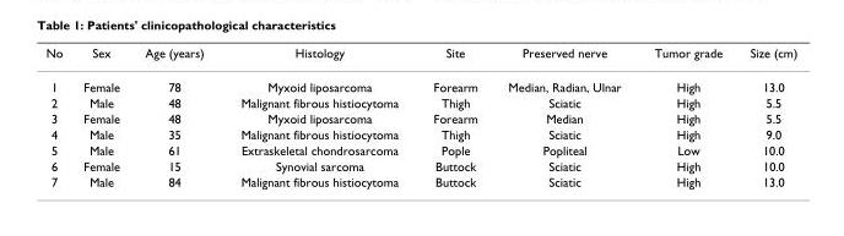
<table><thead><tr><td>No</td><td>Sex</td><td>Age (years)</td><td>Histology</td><td>Site</td><td>Preserved nerve</td><td>Tumor grade</td><td>Size (cm)</td></tr></thead><tbody><tr><td>1</td><td>Female</td><td>78</td><td>Myxoid liposarcoma</td><td>Forearm</td><td>Median, Radian, Ulnar</td><td>High</td><td>13.0</td></tr><tr><td>2</td><td>Male</td><td>48</td><td>Malignant fibrous histiocytoma</td><td>Thigh</td><td>Sciatic</td><td>High</td><td>5.5</td></tr><tr><td>3</td><td>Female</td><td>48</td><td>Myxoid liposarcoma</td><td>Forearm</td><td>Median</td><td>High</td><td>5.5</td></tr><tr><td>4</td><td>Male</td><td>35</td><td>Malignant fibrous histiocytoma</td><td>Thigh</td><td>Sciatic</td><td>High</td><td>9.0</td></tr><tr><td>5</td><td>Male</td><td>61</td><td>Extraskeletal chondrosarcoma</td><td>Pople</td><td>Popliteal</td><td>Low</td><td>10.0</td></tr><tr><td>6</td><td>Female</td><td>15</td><td>Synovial sarcoma</td><td>Buttock</td><td>Sciatic</td><td>High</td><td>10.0</td></tr><tr><td>7</td><td>Male</td><td>84</td><td>Malignant fibrous histiocytoma</td><td>Buttock</td><td>Sciatic</td><td>High</td><td>13.0</td></tr></tbody></table>